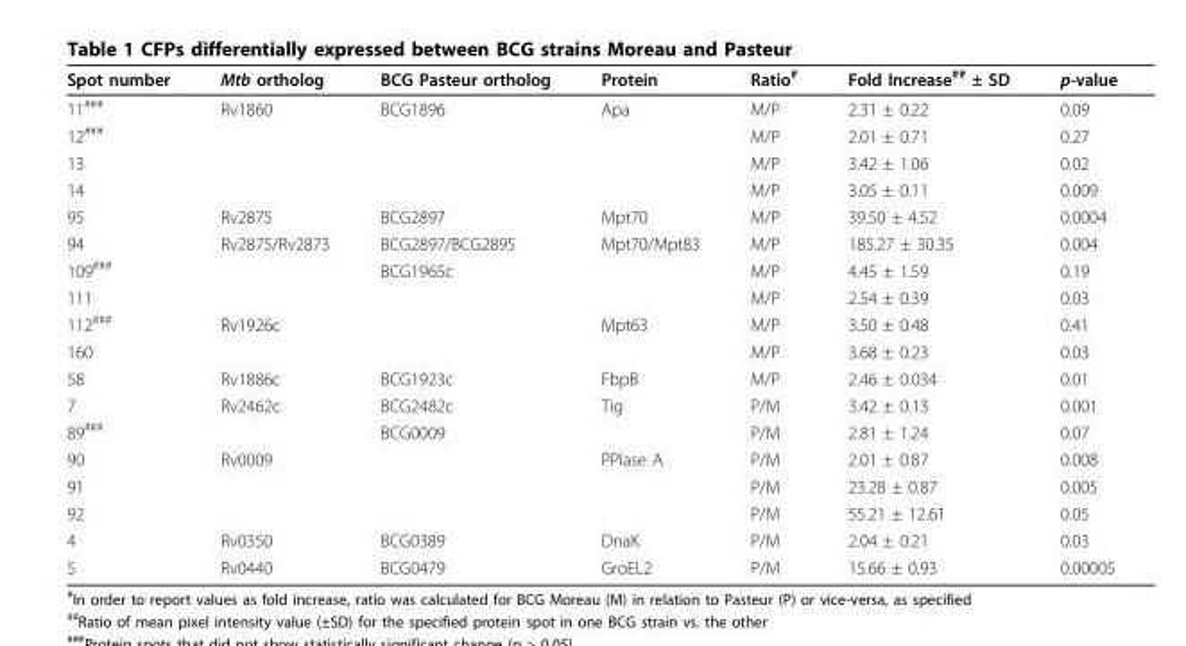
<table><thead><tr><td>Spot number</td><td>Mtb ortholog</td><td>BCG Pasteur ortholog</td><td>Protein</td><td>Ratio<sup>#</sup></td><td>Fold Increase<sup>##</sup> ± SD</td><td>p-value</td></tr></thead><tbody><tr><td>11<sup>###</sup></td><td>Rv1860</td><td>BCG1896</td><td>Apa</td><td>M/P</td><td>2.31 ± 0.22</td><td>0.09</td></tr><tr><td>12<sup>###</sup></td><td></td><td></td><td></td><td>M/P</td><td>2.01 ± 0.71</td><td>0.27</td></tr><tr><td>13</td><td></td><td></td><td></td><td>M/P</td><td>3.42 ± 1.06</td><td>0.02</td></tr><tr><td>14</td><td></td><td></td><td></td><td>M/P</td><td>3.05 ± 0.11</td><td>0.009</td></tr><tr><td>95</td><td>Rv2875</td><td>BCG2897</td><td>Mpt70</td><td>M/P</td><td>39.50 ± 4.52</td><td>0.0004</td></tr><tr><td>94</td><td>Rv2875/Rv2873</td><td>BCG2897/BCG2895</td><td>Mpt70/Mpt83</td><td>M/P</td><td>185.27 ± 30.35</td><td>0.004</td></tr><tr><td>109<sup>###</sup></td><td></td><td>BCG1965c</td><td></td><td>M/P</td><td>4.45 ± 1.59</td><td>0.19</td></tr><tr><td>111</td><td></td><td></td><td></td><td>M/P</td><td>2.54 ± 0.39</td><td>0.03</td></tr><tr><td>112<sup>###</sup></td><td>Rv1926c</td><td></td><td>Mpt63</td><td>M/P</td><td>3.50 ± 0.48</td><td>0.41</td></tr><tr><td>160</td><td></td><td></td><td></td><td>M/P</td><td>3.68 ± 0.23</td><td>0.03</td></tr><tr><td>58</td><td>Rv1886c</td><td>BCG1923c</td><td>FbpB</td><td>M/P</td><td>2.46 ± 0.034</td><td>0.01</td></tr><tr><td>7</td><td>Rv2462c</td><td>BCG2482c</td><td>Tig</td><td>P/M</td><td>3.42 ± 0.13</td><td>0.001</td></tr><tr><td>89<sup>###</sup></td><td></td><td>BCG0009</td><td></td><td>P/M</td><td>2.81 ± 1.24</td><td>0.07</td></tr><tr><td>90</td><td>Rv0009</td><td></td><td>PPIase A</td><td>P/M</td><td>2.01 ± 0.87</td><td>0.008</td></tr><tr><td>91</td><td></td><td></td><td></td><td>P/M</td><td>23.28 ± 0.87</td><td>0.005</td></tr><tr><td>92</td><td></td><td></td><td></td><td>P/M</td><td>55.21 ± 12.61</td><td>0.05</td></tr><tr><td>4</td><td>Rv0350</td><td>BCG0389</td><td>DnaK</td><td>P/M</td><td>2.04 ± 0.21</td><td>0.03</td></tr><tr><td>5</td><td>Rv0440</td><td>BCG0479</td><td>GroEL2</td><td>P/M</td><td>15.66 ± 0.93</td><td>0.00005</td></tr></tbody></table>